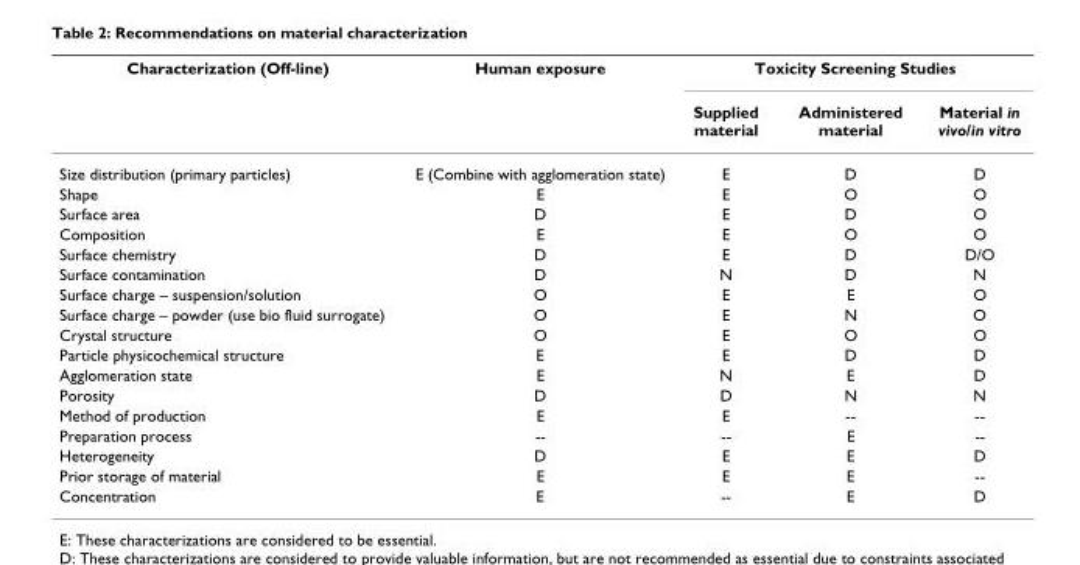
<table><thead><tr><td rowspan="2">Characterization (Off-line)</td><td rowspan="2">Human exposure</td><td colspan="3">Toxicity Screening Studies</td></tr><tr><td>Supplied material</td><td>Administered material</td><td>Material in vivo/in vitro</td></tr></thead><tbody><tr><td>Size distribution (primary particles)</td><td>E (Combine with agglomeration state)</td><td>E</td><td>D</td><td>D</td></tr><tr><td>Shape</td><td>E</td><td>E</td><td>O</td><td>O</td></tr><tr><td>Surface area</td><td>D</td><td>E</td><td>D</td><td>O</td></tr><tr><td>Composition</td><td>E</td><td>E</td><td>O</td><td>O</td></tr><tr><td>Surface chemistry</td><td>D</td><td>E</td><td>D</td><td>D/O</td></tr><tr><td>Surface contamination</td><td>D</td><td>N</td><td>D</td><td>N</td></tr><tr><td>Surface charge – suspension/solution</td><td>O</td><td>E</td><td>E</td><td>O</td></tr><tr><td>Surface charge – powder (use bio fluid surrogate)</td><td>O</td><td>E</td><td>N</td><td>O</td></tr><tr><td>Crystal structure</td><td>O</td><td>E</td><td>O</td><td>O</td></tr><tr><td>Particle physicochemical structure</td><td>E</td><td>E</td><td>D</td><td>D</td></tr><tr><td>Agglomeration state</td><td>E</td><td>N</td><td>E</td><td>D</td></tr><tr><td>Porosity</td><td>D</td><td>D</td><td>N</td><td>N</td></tr><tr><td>Method of production</td><td>E</td><td>E</td><td>--</td><td>--</td></tr><tr><td>Preparation process</td><td>--</td><td>--</td><td>E</td><td>--</td></tr><tr><td>Heterogeneity</td><td>D</td><td>E</td><td>E</td><td>D</td></tr><tr><td>Prior storage of material</td><td>E</td><td>E</td><td>E</td><td>--</td></tr><tr><td>Concentration</td><td>E</td><td>--</td><td>E</td><td>D</td></tr></tbody></table>